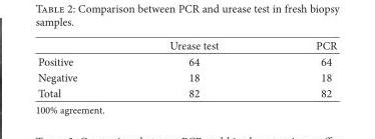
<table><thead><tr><td></td><td>Urease test</td><td>PCR</td></tr></thead><tbody><tr><td>Positive</td><td>64</td><td>64</td></tr><tr><td>Negative</td><td>18</td><td>18</td></tr><tr><td>Total</td><td>82</td><td>82</td></tr></tbody></table>